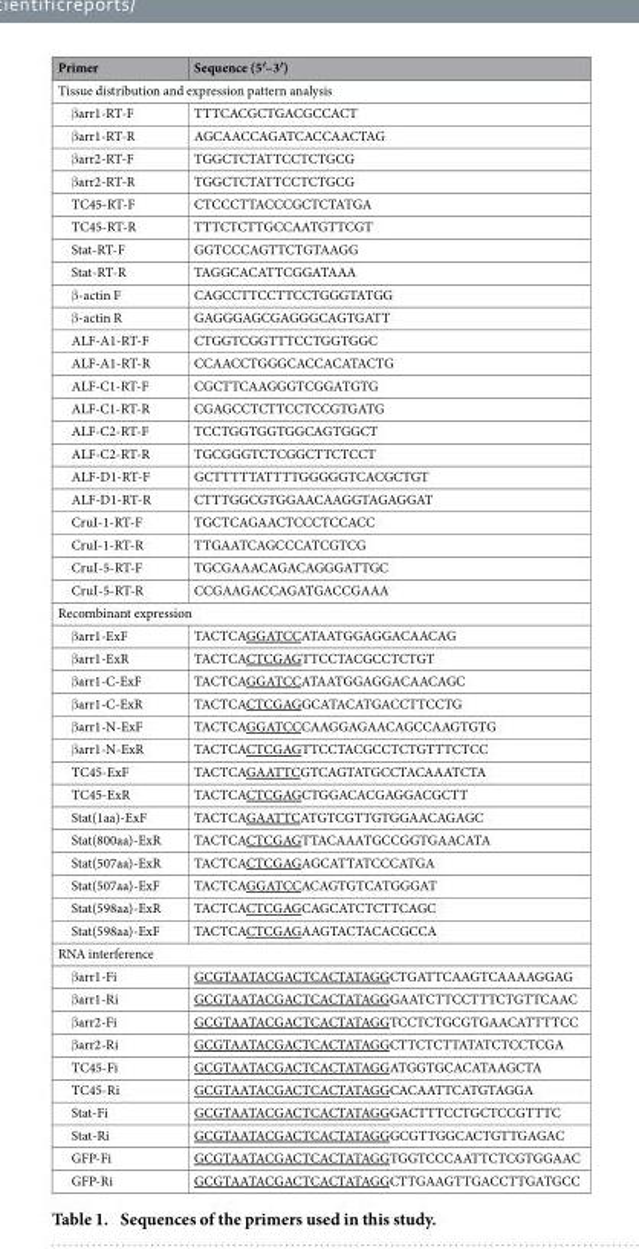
<table><thead><tr><td>Primer</td><td>Sequence (5′–3′)</td></tr></thead><tbody><tr><td colspan="2">Tissue distribution and expression pattern analysis</td></tr><tr><td>β arr1-RT-F</td><td>TTTCACGCTGACGCCACT</td></tr><tr><td>β arr1-RT-R</td><td>AGCAACCAGATCACCAACTAG</td></tr><tr><td>β arr2-RT-F</td><td>TGGCTCTATTCCTCTGCG</td></tr><tr><td>β arr2-RT-R</td><td>TGGCTCTATTCCTCTGCG</td></tr><tr><td>TC45-RT-F</td><td>CTCCCTTACCCGCTCTATGA</td></tr><tr><td>TC45-RT-R</td><td>TTTCTCTTGCCAATGTTCGT</td></tr><tr><td>Stat-RT-F</td><td>GGTCCCAGTTCTGTAAGG</td></tr><tr><td>Stat-RT-R</td><td>TAGGCACATTCGGATAAA</td></tr><tr><td>β -actin F</td><td>CAGCCTTCCTTCCTGGGTATGG</td></tr><tr><td>β -actin R</td><td>GAGGGAGCGAGGGCAGTGATT</td></tr><tr><td>ALF-A1-RT-F</td><td>CTGGTCGGTTTCCTGGTGGC</td></tr><tr><td>ALF-A1-RT-R</td><td>CCAACCTGGGCACCACATACTG</td></tr><tr><td>ALF-C1-RT-F</td><td>CGCTTCAAGGGTCGGATGTG</td></tr><tr><td>ALF-C1-RT-R</td><td>CGAGCCTCTTCCTCCGTGATG</td></tr><tr><td>ALF-C2-RT-F</td><td>TCCTGGTGGTGGCAGTGGCT</td></tr><tr><td>ALF-C2-RT-R</td><td>TGCGGGTCTCGGCTTCTCCT</td></tr><tr><td>ALF-D1-RT-F</td><td>GCTTTTTATTTTGGGGGTCACGCTGT</td></tr><tr><td>ALF-D1-RT-R</td><td>CTTTGGCGTGGAACAAGGTAGAGGAT</td></tr><tr><td>CruI-1-RT-F</td><td>TGCTCAGAACTCCCTCCACC</td></tr><tr><td>CruI-1-RT-R</td><td>TTGAATCAGCCCATCGTCG</td></tr><tr><td>CruΙ -5-RT-F</td><td>TGCGAAACAGACAGGGATTGC</td></tr><tr><td>CruΙ -5-RT-R</td><td>CCGAAGACCAGATGACCGAAA</td></tr><tr><td colspan="2">Recombinant expression</td></tr><tr><td>β arr1-ExF</td><td>TACTCAGGATCCATAATGGAGGACAACAG</td></tr><tr><td>β arr1-ExR</td><td>TACTCACTCGAGTTCCTACGCCTCTGT</td></tr><tr><td>β arr1-C-ExF</td><td>TACTCAGGATCCATAATGGAGGACAACAGC</td></tr><tr><td>β arr1-C-ExR</td><td>TACTCACTCGAGGCATACATGACCTTCCTG</td></tr><tr><td>β arr1-N-ExF</td><td>TACTCAGGATCCCAAGGAGAACAGCCAAGTGTG</td></tr><tr><td>β arr1-N-ExR</td><td>TACTCACTCGAGTTCCTACGCCTCTGTTTCTCC</td></tr><tr><td>TC45-ExF</td><td>TACTCAGAATTCGTCAGTATGCCTACAAATCTA</td></tr><tr><td>TC45-ExR</td><td>TACTCACTCGAGCTGGACACGAGGACGCTT</td></tr><tr><td>Stat(1aa)-ExF</td><td>TACTCAGAATTCATGTCGTTGTGGAACAGAGC</td></tr><tr><td>Stat(800aa)-ExR</td><td>TACTCACTCGAGTTACAAATGCCGGTGAACATA</td></tr><tr><td>Stat(507aa)-ExR</td><td>TACTCACTCGAGAGCATTATCCCATGA</td></tr><tr><td>Stat(507aa)-ExF</td><td>TACTCAGGATCCACAGTGTCATGGGAT</td></tr><tr><td>Stat(598aa)-ExR</td><td>TACTCACTCGAGCAGCATCTCTTCAGC</td></tr><tr><td>Stat(598aa)-ExF</td><td>TACTCACTCGAGAAGTACTACACGCCA</td></tr><tr><td colspan="2">RNA interference</td></tr><tr><td>β arr1-Fi</td><td>GCGTAATACGACTCACTATAGGCTGATTCAAGTCAAAAGGAG</td></tr><tr><td>β arr1-Ri</td><td>GCGTAATACGACTCACTATAGGGAATCTTCCTTTCTGTTCAAC</td></tr><tr><td>β arr2-Fi</td><td>GCGTAATACGACTCACTATAGGTCCTCTGCGTGAACATTTTCC</td></tr><tr><td>β arr2-Ri</td><td>GCGTAATACGACTCACTATAGGCTTCTCTTATATCTCCTCGA</td></tr><tr><td>TC45-Fi</td><td>GCGTAATACGACTCACTATAGGATGGTGCACATAAGCTA</td></tr><tr><td>TC45-Ri</td><td>GCGTAATACGACTCACTATAGGCACAATTCATGTAGGA</td></tr><tr><td>Stat-Fi</td><td>GCGTAATACGACTCACTATAGGGACTTTCCTGCTCCGTTTC</td></tr><tr><td>Stat-Ri</td><td>GCGTAATACGACTCACTATAGGGCGTTGGCACTGTTGAGAC</td></tr><tr><td>GFP-Fi</td><td>GCGTAATACGACTCACTATAGGTGGTCCCAATTCTCGTGGAAC</td></tr><tr><td>GFP-Ri</td><td>GCGTAATACGACTCACTATAGGCTTGAAGTTGACCTTGATGCC</td></tr></tbody></table>